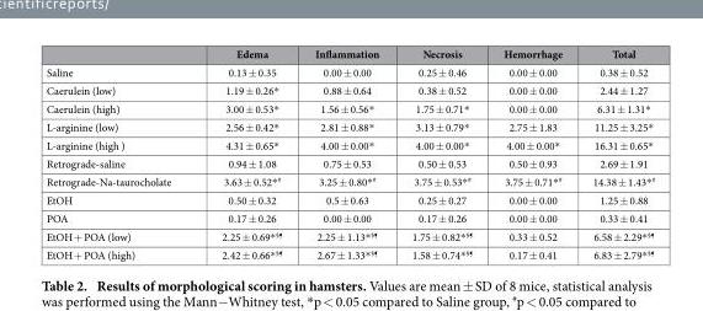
<table><thead><tr><td></td><td>Edema</td><td>Inflammation</td><td>Necrosis</td><td>Hemorrhage</td><td>Total</td></tr></thead><tbody><tr><td>Saline</td><td>0.13 ± 0.35</td><td>0.00 ± 0.00</td><td>0.25 ± 0.46</td><td>0.00 ± 0.00</td><td>0.38 ± 0.52</td></tr><tr><td>Caerulein (low)</td><td>1.19 ± 0.26*</td><td>0.88 ± 0.64</td><td>0.38 ± 0.52</td><td>0.00 ± 0.00</td><td>2.44 ± 1.27</td></tr><tr><td>Caerulein (high)</td><td>3.00 ± 0.53*</td><td>1.56 ± 0.56*</td><td>1.75 ± 0.71*</td><td>0.00 ± 0.00</td><td>6.31 ± 1.31*</td></tr><tr><td>L-arginine (low)</td><td>2.56 ± 0.42*</td><td>2.81 ± 0.88*</td><td>3.13 ± 0.79*</td><td>2.75 ± 1.83</td><td>11.25 ± 3.25*</td></tr><tr><td>L-arginine (high )</td><td>4.31 ± 0.65*</td><td>4.00 ± 0.00*</td><td>4.00 ± 0.00*</td><td>4.00 ± 0.00*</td><td>16.31 ± 0.65*</td></tr><tr><td>Retrograde-saline</td><td>0.94 ± 1.08</td><td>0.75 ± 0.53</td><td>0.50 ± 0.53</td><td>0.50 ± 0.93</td><td>2.69 ± 1.91</td></tr><tr><td>Retrograde-Na-taurocholate</td><td>3.63 ± 0.52* <sup>#</sup></td><td>3.25 ± 0.80* <sup>#</sup></td><td>3.75 ± 0.53* <sup>#</sup></td><td>3.75 ± 0.71* <sup>#</sup></td><td>14.38 ± 1.43* <sup>#</sup></td></tr><tr><td>EtOH</td><td>0.50 ± 0.32</td><td>0.5 ± 0.63</td><td>0.25 ± 0.27</td><td>0.00 ± 0.00</td><td>1.25 ± 0.88</td></tr><tr><td>POA</td><td>0.17 ± 0.26</td><td>0.00 ± 0.00</td><td>0.17 ± 0.26</td><td>0.00 ± 0.00</td><td>0.33 ± 0.41</td></tr><tr><td>EtOH + POA (low)</td><td>2.25 ± 0.69* <sup>§¶</sup></td><td>2.25 ± 1.13* <sup>§¶</sup></td><td>1.75 ± 0.82* <sup>§¶</sup></td><td>0.33 ± 0.52</td><td>6.58 ± 2.29* <sup>§¶</sup></td></tr><tr><td>EtOH + POA (high)</td><td>2.42 ± 0.66* <sup>§¶</sup></td><td>2.67 ± 1.33* <sup>§¶</sup></td><td>1.58 ± 0.74* <sup>§¶</sup></td><td>0.17 ± 0.41</td><td>6.83 ± 2.79* <sup>§¶</sup></td></tr></tbody></table>